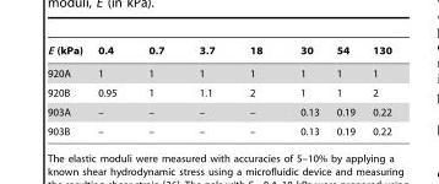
<table><thead><tr><td>E (kPa)</td><td>0.4</td><td>0.7</td><td>3.7</td><td>18</td><td>30</td><td>54</td><td>130</td></tr></thead><tbody><tr><td>920A</td><td>1</td><td>1</td><td>1</td><td>1</td><td>1</td><td>1</td><td>1</td></tr><tr><td>920B</td><td>0.95</td><td>1</td><td>1.1</td><td>2</td><td>1</td><td>1</td><td>2</td></tr><tr><td>903A</td><td>–</td><td>–</td><td>–</td><td>–</td><td>0.13</td><td>0.19</td><td>0.22</td></tr><tr><td>903B</td><td>–</td><td>–</td><td>–</td><td>–</td><td>0.13</td><td>0.19</td><td>0.22</td></tr></tbody></table>